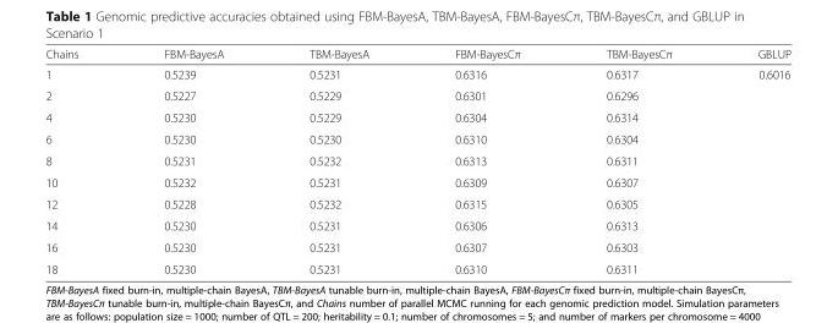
<table><thead><tr><td>Chains</td><td>FBM-BayesA</td><td>TBM-BayesA</td><td>FBM-BayesCπ</td><td>TBM-BayesCπ</td><td>GBLUP</td></tr></thead><tbody><tr><td>1</td><td>0.5239</td><td>0.5231</td><td>0.6316</td><td>0.6317</td><td rowspan="10">0.6016</td></tr><tr><td>2</td><td>0.5227</td><td>0.5229</td><td>0.6301</td><td>0.6296</td></tr><tr><td>4</td><td>0.5230</td><td>0.5229</td><td>0.6304</td><td>0.6314</td></tr><tr><td>6</td><td>0.5230</td><td>0.5230</td><td>0.6310</td><td>0.6304</td></tr><tr><td>8</td><td>0.5231</td><td>0.5232</td><td>0.6313</td><td>0.6311</td></tr><tr><td>10</td><td>0.5232</td><td>0.5231</td><td>0.6309</td><td>0.6307</td></tr><tr><td>12</td><td>0.5228</td><td>0.5232</td><td>0.6315</td><td>0.6305</td></tr><tr><td>14</td><td>0.5230</td><td>0.5231</td><td>0.6306</td><td>0.6313</td></tr><tr><td>16</td><td>0.5230</td><td>0.5231</td><td>0.6307</td><td>0.6303</td></tr><tr><td>18</td><td>0.5230</td><td>0.5231</td><td>0.6310</td><td>0.6311</td></tr></tbody></table>